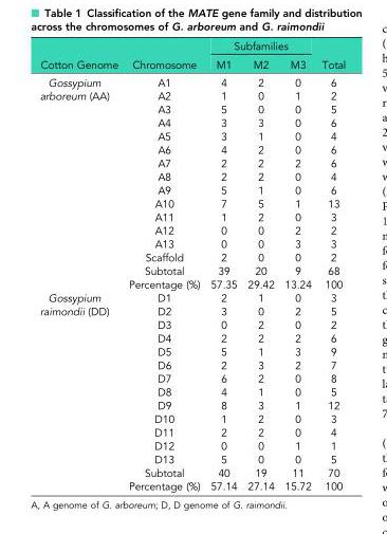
<table><thead><tr><td rowspan="2">Cotton Genome</td><td rowspan="2">Chromosome</td><td colspan="3">Subfamilies</td><td rowspan="2">Total</td></tr><tr><td>M1</td><td>M2</td><td>M3</td></tr></thead><tbody><tr><td rowspan="16">Gossypium arboreum (AA)</td><td>A1</td><td>4</td><td>2</td><td>0</td><td>6</td></tr><tr><td>A2</td><td>1</td><td>0</td><td>1</td><td>2</td></tr><tr><td>A3</td><td>5</td><td>0</td><td>0</td><td>5</td></tr><tr><td>A4</td><td>3</td><td>3</td><td>0</td><td>6</td></tr><tr><td>A5</td><td>3</td><td>1</td><td>0</td><td>4</td></tr><tr><td>A6</td><td>4</td><td>2</td><td>0</td><td>6</td></tr><tr><td>A7</td><td>2</td><td>2</td><td>2</td><td>6</td></tr><tr><td>A8</td><td>2</td><td>2</td><td>0</td><td>4</td></tr><tr><td>A9</td><td>5</td><td>1</td><td>0</td><td>6</td></tr><tr><td>A10</td><td>7</td><td>5</td><td>1</td><td>13</td></tr><tr><td>A11</td><td>1</td><td>2</td><td>0</td><td>3</td></tr><tr><td>A12</td><td>0</td><td>0</td><td>2</td><td>2</td></tr><tr><td>A13</td><td>0</td><td>0</td><td>3</td><td>3</td></tr><tr><td>Scaffold</td><td>2</td><td>0</td><td>0</td><td>2</td></tr><tr><td>Subtotal</td><td>39</td><td>20</td><td>9</td><td>68</td></tr><tr><td>Percentage (%)</td><td>57.35</td><td>29.42</td><td>13.24</td><td>100</td></tr><tr><td rowspan="15">Gossypium raimondii (DD)</td><td>D1</td><td>2</td><td>1</td><td>0</td><td>3</td></tr><tr><td>D2</td><td>3</td><td>0</td><td>2</td><td>5</td></tr><tr><td>D3</td><td>0</td><td>2</td><td>0</td><td>2</td></tr><tr><td>D4</td><td>2</td><td>2</td><td>2</td><td>6</td></tr><tr><td>D5</td><td>5</td><td>1</td><td>3</td><td>9</td></tr><tr><td>D6</td><td>2</td><td>3</td><td>2</td><td>7</td></tr><tr><td>D7</td><td>6</td><td>2</td><td>0</td><td>8</td></tr><tr><td>D8</td><td>4</td><td>1</td><td>0</td><td>5</td></tr><tr><td>D9</td><td>8</td><td>3</td><td>1</td><td>12</td></tr><tr><td>D10</td><td>1</td><td>2</td><td>0</td><td>3</td></tr><tr><td>D11</td><td>2</td><td>2</td><td>0</td><td>4</td></tr><tr><td>D12</td><td>0</td><td>0</td><td>1</td><td>1</td></tr><tr><td>D13</td><td>5</td><td>0</td><td>0</td><td>5</td></tr><tr><td>Subtotal</td><td>40</td><td>19</td><td>11</td><td>70</td></tr><tr><td>Percentage (%)</td><td>57.14</td><td>27.14</td><td>15.72</td><td>100</td></tr></tbody></table>